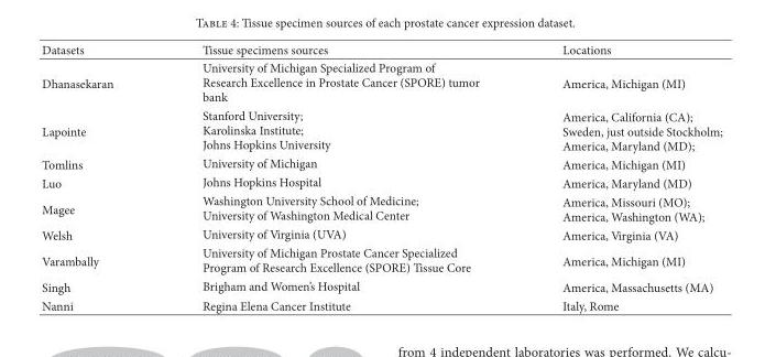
<table><thead><tr><td>Datasets</td><td>Tissue specimens sources</td><td>Locations</td></tr></thead><tbody><tr><td>Dhanasekaran</td><td>University of Michigan Specialized Program of Research Excellence in Prostate Cancer (SPORE) tumor bank</td><td>America, Michigan (MI)</td></tr><tr><td>Lapointe</td><td>Stanford University; Karolinska Institute; Johns Hopkins University</td><td>America, California (CA); Sweden, just outside Stockholm; America, Maryland (MD);</td></tr><tr><td>Tomlins</td><td>University of Michigan</td><td>America, Michigan (MI)</td></tr><tr><td>Luo</td><td>Johns Hopkins Hospital</td><td>America, Maryland (MD)</td></tr><tr><td>Magee</td><td>Washington University School of Medicine; University of Washington Medical Center</td><td>America, Missouri (MO); America, Washington (WA);</td></tr><tr><td>Welsh</td><td>University of Virginia (UVA)</td><td>America, Virginia (VA)</td></tr><tr><td>Varambally</td><td>University of Michigan Prostate Cancer Specialized Program of Research Excellence (SPORE) Tissue Core</td><td>America, Michigan (MI)</td></tr><tr><td>Singh</td><td>Brigham and Women’s Hospital</td><td>America, Massachusetts (MA)</td></tr><tr><td>Nanni</td><td>Regina Elena Cancer Institute</td><td>Italy, Rome</td></tr></tbody></table>